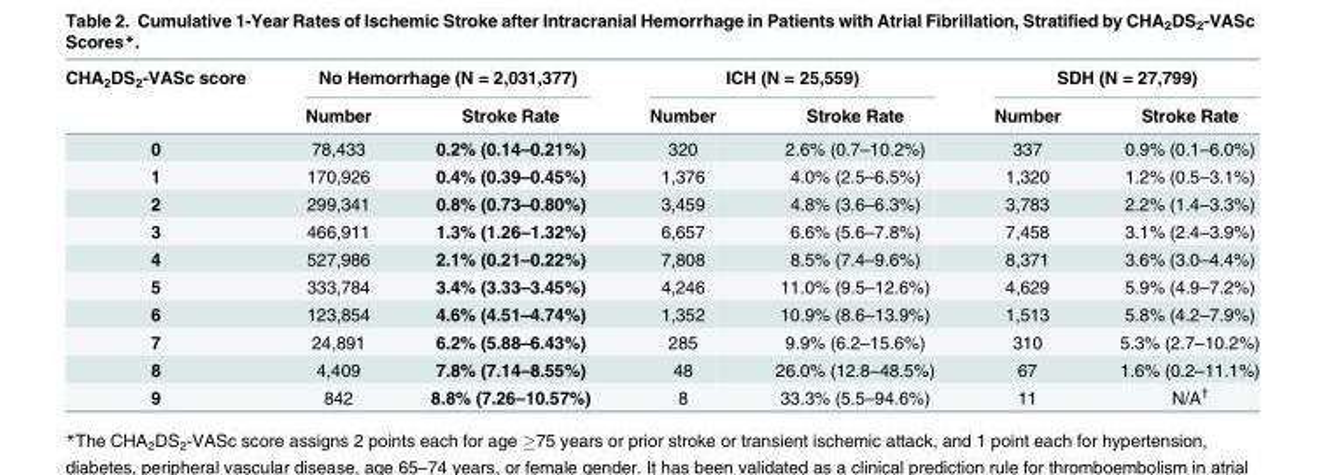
<table><thead><tr><td rowspan="2">CHA<sub>2</sub>DS<sub>2</sub>-VASc score</td><td colspan="2">No Hemorrhage (N = 2,031,377)</td><td colspan="2">ICH (N = 25,559)</td><td colspan="2">SDH (N = 27,799)</td></tr><tr><td>Number</td><td>Stroke Rate</td><td>Number</td><td>Stroke Rate</td><td>Number</td><td>Stroke Rate</td></tr></thead><tbody><tr><td>0</td><td>78,433</td><td>0.2% (0.14–0.21%)</td><td>320</td><td>2.6% (0.7–10.2%)</td><td>337</td><td>0.9% (0.1–6.0%)</td></tr><tr><td>1</td><td>170,926</td><td>0.4% (0.39–0.45%)</td><td>1,376</td><td>4.0% (2.5–6.5%)</td><td>1,320</td><td>1.2% (0.5–3.1%)</td></tr><tr><td>2</td><td>299,341</td><td>0.8% (0.73–0.80%)</td><td>3,459</td><td>4.8% (3.6–6.3%)</td><td>3,783</td><td>2.2% (1.4–3.3%)</td></tr><tr><td>3</td><td>466,911</td><td>1.3% (1.26–1.32%)</td><td>6,657</td><td>6.6% (5.6–7.8%)</td><td>7,458</td><td>3.1% (2.4–3.9%)</td></tr><tr><td>4</td><td>527,986</td><td>2.1% (0.21–0.22%)</td><td>7,808</td><td>8.5% (7.4–9.6%)</td><td>8,371</td><td>3.6% (3.0–4.4%)</td></tr><tr><td>5</td><td>333,784</td><td>3.4% (3.33–3.45%)</td><td>4,246</td><td>11.0% (9.5–12.6%)</td><td>4,629</td><td>5.9% (4.9–7.2%)</td></tr><tr><td>6</td><td>123,854</td><td>4.6% (4.51–4.74%)</td><td>1,352</td><td>10.9% (8.6–13.9%)</td><td>1,513</td><td>5.8% (4.2–7.9%)</td></tr><tr><td>7</td><td>24,891</td><td>6.2% (5.88–6.43%)</td><td>285</td><td>9.9% (6.2–15.6%)</td><td>310</td><td>5.3% (2.7–10.2%)</td></tr><tr><td>8</td><td>4,409</td><td>7.8% (7.14–8.55%)</td><td>48</td><td>26.0% (12.8–48.5%)</td><td>67</td><td>1.6% (0.2–11.1%)</td></tr><tr><td>9</td><td>842</td><td>8.8% (7.26–10.57%)</td><td>8</td><td>33.3% (5.5–94.6%)</td><td>11</td><td>N/A<sup>†</sup></td></tr></tbody></table>